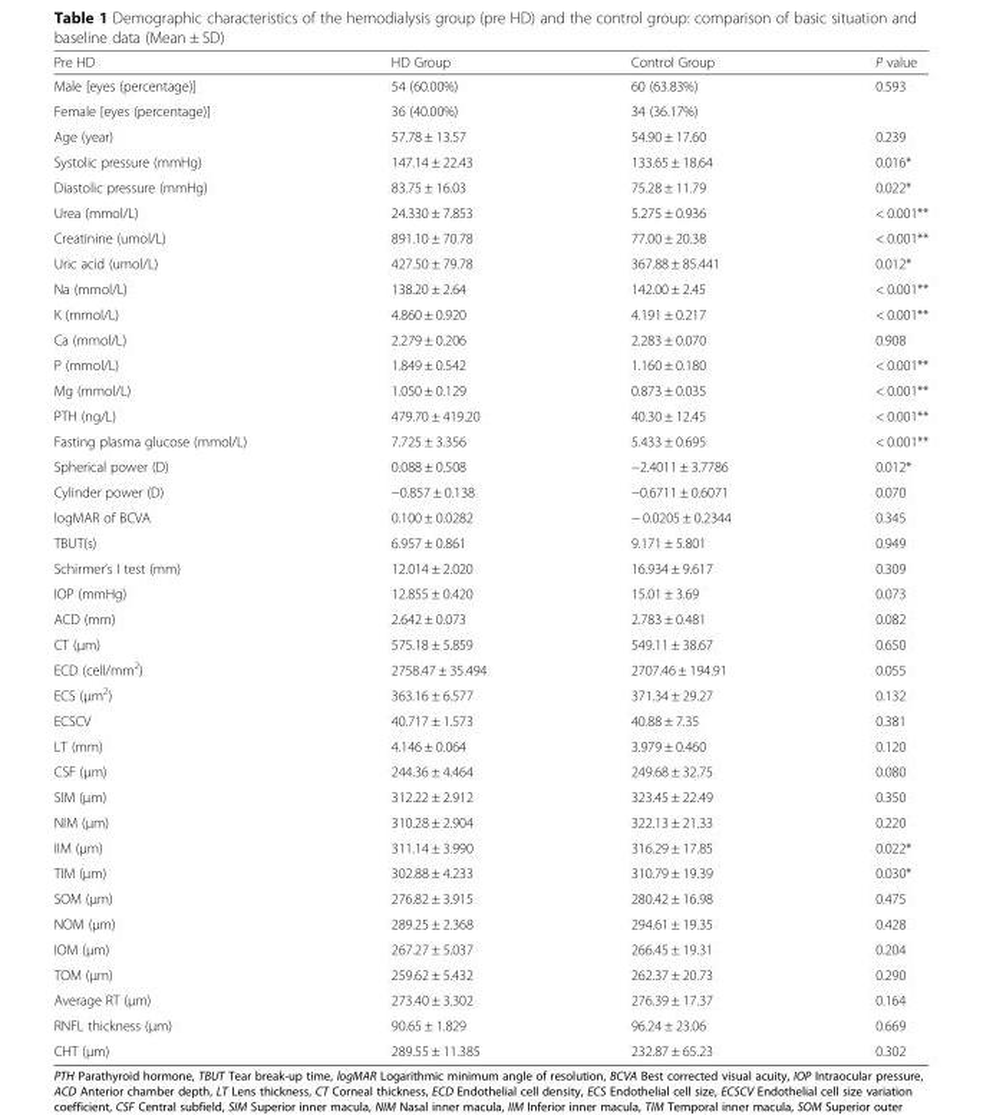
<table><thead><tr><td>Pre HD</td><td>HD Group</td><td>Control Group</td><td>P value</td></tr></thead><tbody><tr><td>Male [eyes (percentage)]</td><td>54 (60.00%)</td><td>60 (63.83%)</td><td rowspan="2">0.593</td></tr><tr><td>Female [eyes (percentage)]</td><td>36 (40.00%)</td><td>34 (36.17%)</td></tr><tr><td>Age (year)</td><td>57.78 ± 13.57</td><td>54.90 ± 17.60</td><td>0.239</td></tr><tr><td>Systolic pressure (mmHg)</td><td>147.14 ± 22.43</td><td>133.65 ± 18.64</td><td>0.016*</td></tr><tr><td>Diastolic pressure (mmHg)</td><td>83.75 ± 16.03</td><td>75.28 ± 11.79</td><td>0.022*</td></tr><tr><td>Urea (mmol/L)</td><td>24.330 ± 7.853</td><td>5.275 ± 0.936</td><td>&lt; 0.001**</td></tr><tr><td>Creatinine (umol/L)</td><td>891.10 ± 70.78</td><td>77.00 ± 20.38</td><td>&lt; 0.001**</td></tr><tr><td>Uric acid (umol/L)</td><td>427.50 ± 79.78</td><td>367.88 ± 85.441</td><td>0.012*</td></tr><tr><td>Na (mmol/L)</td><td>138.20 ± 2.64</td><td>142.00 ± 2.45</td><td>&lt; 0.001**</td></tr><tr><td>K (mmol/L)</td><td>4.860 ± 0.920</td><td>4.191 ± 0.217</td><td>&lt; 0.001**</td></tr><tr><td>Ca (mmol/L)</td><td>2.279 ± 0.206</td><td>2.283 ± 0.070</td><td>0.908</td></tr><tr><td>P (mmol/L)</td><td>1.849 ± 0.542</td><td>1.160 ± 0.180</td><td>&lt; 0.001**</td></tr><tr><td>Mg (mmol/L)</td><td>1.050 ± 0.129</td><td>0.873 ± 0.035</td><td>&lt; 0.001**</td></tr><tr><td>PTH (ng/L)</td><td>479.70 ± 419.20</td><td>40.30 ± 12.45</td><td>&lt; 0.001**</td></tr><tr><td>Fasting plasma glucose (mmol/L)</td><td>7.725 ± 3.356</td><td>5.433 ± 0.695</td><td>&lt; 0.001**</td></tr><tr><td>Spherical power (D)</td><td>0.088 ± 0.508</td><td>−2.4011 ± 3.7786</td><td>0.012*</td></tr><tr><td>Cylinder power (D)</td><td>−0.857 ± 0.138</td><td>−0.6711 ± 0.6071</td><td>0.070</td></tr><tr><td>logMAR of BCVA</td><td>0.100 ± 0.0282</td><td>− 0.0205 ± 0.2344</td><td>0.345</td></tr><tr><td>TBUT(s)</td><td>6.957 ± 0.861</td><td>9.171 ± 5.801</td><td>0.949</td></tr><tr><td>Schirmer’s I test (mm)</td><td>12.014 ± 2.020</td><td>16.934 ± 9.617</td><td>0.309</td></tr><tr><td>IOP (mmHg)</td><td>12.855 ± 0.420</td><td>15.01 ± 3.69</td><td>0.073</td></tr><tr><td>ACD (mm)</td><td>2.642 ± 0.073</td><td>2.783 ± 0.481</td><td>0.082</td></tr><tr><td>CT (μm)</td><td>575.18 ± 5.859</td><td>549.11 ± 38.67</td><td>0.650</td></tr><tr><td>ECD (cell/mm<sup>2</sup>)</td><td>2758.47 ± 35.494</td><td>2707.46 ± 194.91</td><td>0.055</td></tr><tr><td>ECS (μm<sup>2</sup>)</td><td>363.16 ± 6.577</td><td>371.34 ± 29.27</td><td>0.132</td></tr><tr><td>ECSCV</td><td>40.717 ± 1.573</td><td>40.88 ± 7.35</td><td>0.381</td></tr><tr><td>LT (mm)</td><td>4.146 ± 0.064</td><td>3.979 ± 0.460</td><td>0.120</td></tr><tr><td>CSF (μm)</td><td>244.36 ± 4.464</td><td>249.68 ± 32.75</td><td>0.080</td></tr><tr><td>SIM (μm)</td><td>312.22 ± 2.912</td><td>323.45 ± 22.49</td><td>0.350</td></tr><tr><td>NIM (μm)</td><td>310.28 ± 2.904</td><td>322.13 ± 21.33</td><td>0.220</td></tr><tr><td>IIM (μm)</td><td>311.14 ± 3.990</td><td>316.29 ± 17.85</td><td>0.022*</td></tr><tr><td>TIM (μm)</td><td>302.88 ± 4.233</td><td>310.79 ± 19.39</td><td>0.030*</td></tr><tr><td>SOM (μm)</td><td>276.82 ± 3.915</td><td>280.42 ± 16.98</td><td>0.475</td></tr><tr><td>NOM (μm)</td><td>289.25 ± 2.368</td><td>294.61 ± 19.35</td><td>0.428</td></tr><tr><td>IOM (μm)</td><td>267.27 ± 5.037</td><td>266.45 ± 19.31</td><td>0.204</td></tr><tr><td>TOM (μm)</td><td>259.62 ± 5.432</td><td>262.37 ± 20.73</td><td>0.290</td></tr><tr><td>Average RT (μm)</td><td>273.40 ± 3.302</td><td>276.39 ± 17.37</td><td>0.164</td></tr><tr><td>RNFL thickness (μm)</td><td>90.65 ± 1.829</td><td>96.24 ± 23.06</td><td>0.669</td></tr><tr><td>CHT (μm)</td><td>289.55 ± 11.385</td><td>232.87 ± 65.23</td><td>0.302</td></tr></tbody></table>